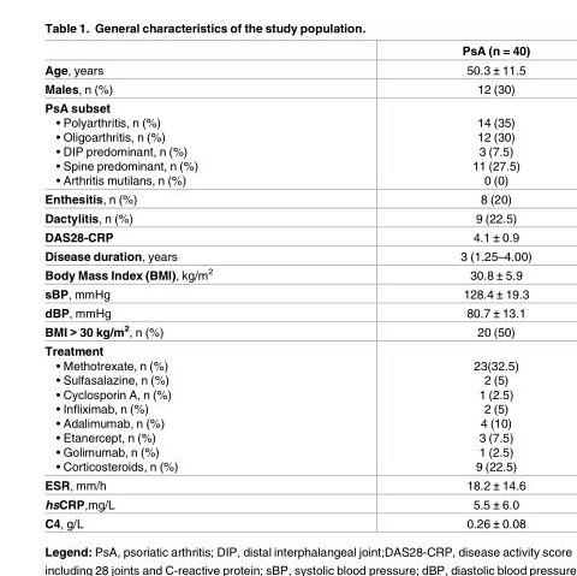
<table><thead><tr><td></td><td>PsA (n = 40)</td></tr></thead><tbody><tr><td>Age, years</td><td>50.3 ± 11.5</td></tr><tr><td>Males, n (%)</td><td>12 (30)</td></tr><tr><td>PsA subset • Polyarthritis, n (%) • Oligoarthritis, n (%) • DIP predominant, n (%) • Spine predominant, n (%) • Arthritis mutilans, n (%)</td><td>14 (35) 12 (30) 3 (7.5) 11 (27.5) 0 (0)</td></tr><tr><td>Enthesitis, n (%)</td><td>8 (20)</td></tr><tr><td>Dactylitis, n (%)</td><td>9 (22.5)</td></tr><tr><td>DAS28-CRP</td><td>4.1 ± 0.9</td></tr><tr><td>Disease duration, years</td><td>3 (1.25–4.00)</td></tr><tr><td>Body Mass Index (BMI), kg/m<sup>2</sup></td><td>30.8 ± 5.9</td></tr><tr><td>sBP, mmHg</td><td>128.4 ± 19.3</td></tr><tr><td>dBP, mmHg</td><td>80.7 ± 13.1</td></tr><tr><td>BMI &gt; 30 kg/m<sup>2</sup>, n (%)</td><td>20 (50)</td></tr><tr><td>Treatment • Methotrexate, n (%) • Sulfasalazine, n (%) • Cyclosporin A, n (%) • Infliximab, n (%) • Adalimumab, n (%) • Etanercept, n (%) • Golimumab, n (%) • Corticosteroids, n (%)</td><td>23(32.5) 2 (5) 1 (2.5) 2 (5) 4 (10) 3 (7.5) 1 (2.5) 9 (22.5)</td></tr><tr><td>ESR, mm/h</td><td>18.2 ± 14.6</td></tr><tr><td>hsCRP,mg/L</td><td>5.5 ± 6.0</td></tr><tr><td>C4, g/L</td><td>0.26 ± 0.08</td></tr></tbody></table>